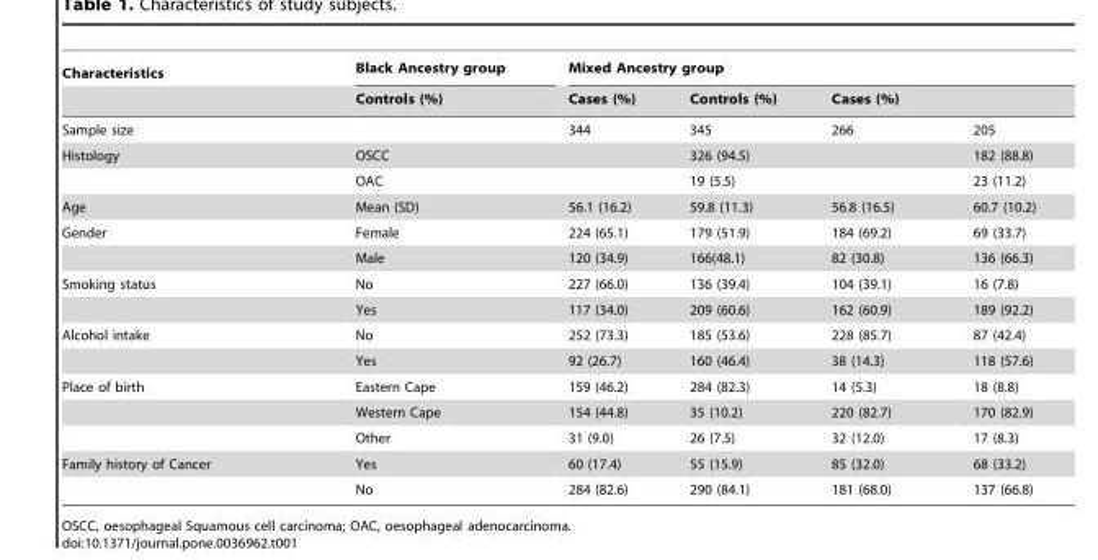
<table><thead><tr><td rowspan="3">Characteristics Sample size</td><td rowspan="3">Black Ancestry group Controls (%)</td><td colspan="4">Mixed Ancestry group</td></tr><tr><td rowspan="2">Cases (%) 344</td><td rowspan="2">Controls (%) 345</td><td colspan="2">Cases (%)</td></tr><tr><td>266</td><td>205</td></tr></thead><tbody><tr><td rowspan="2">Histology</td><td>OSCC</td><td></td><td>326 (94.5)</td><td></td><td>182 (88.8)</td></tr><tr><td>OAC</td><td></td><td>19 (5.5)</td><td></td><td>23 (11.2)</td></tr><tr><td>Age</td><td>Mean (SD)</td><td>56.1 (16.2)</td><td>59.8 (11.3)</td><td>56.8 (16.5)</td><td>60.7 (10.2)</td></tr><tr><td rowspan="2">Gender</td><td>Female</td><td>224 (65.1)</td><td>179 (51.9)</td><td>184 (69.2)</td><td>69 (33.7)</td></tr><tr><td>Male</td><td>120 (34.9)</td><td>166(48.1)</td><td>82 (30.8)</td><td>136 (66.3)</td></tr><tr><td rowspan="2">Smoking status</td><td>No</td><td>227 (66.0)</td><td>136 (39.4)</td><td>104 (39.1)</td><td>16 (7.8)</td></tr><tr><td>Yes</td><td>117 (34.0)</td><td>209 (60.6)</td><td>162 (60.9)</td><td>189 (92.2)</td></tr><tr><td rowspan="2">Alcohol intake</td><td>No</td><td>252 (73.3)</td><td>185 (53.6)</td><td>228 (85.7)</td><td>87 (42.4)</td></tr><tr><td>Yes</td><td>92 (26.7)</td><td>160 (46.4)</td><td>38 (14.3)</td><td>118 (57.6)</td></tr><tr><td rowspan="3">Place of birth</td><td>Eastern Cape</td><td>159 (46.2)</td><td>284 (82.3)</td><td>14 (5.3)</td><td>18 (8.8)</td></tr><tr><td>Western Cape</td><td>154 (44.8)</td><td>35 (10.2)</td><td>220 (82.7)</td><td>170 (82.9)</td></tr><tr><td>Other</td><td>31 (9.0)</td><td>26 (7.5)</td><td>32 (12.0)</td><td>17 (8.3)</td></tr><tr><td rowspan="2">Family history of Cancer</td><td>Yes</td><td>60 (17.4)</td><td>55 (15.9)</td><td>85 (32.0)</td><td>68 (33.2)</td></tr><tr><td>No</td><td>284 (82.6)</td><td>290 (84.1)</td><td>181 (68.0)</td><td>137 (66.8)</td></tr></tbody></table>